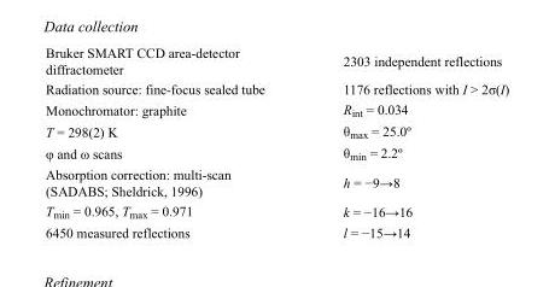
<table><tbody><tr><td>Bruker SMART CCD area-detector diffractometer</td><td>2303 independent reflections</td></tr><tr><td>Radiation source: fine-focus sealed tube</td><td>1176 reflections with I &gt; 2σ(I)</td></tr><tr><td>Monochromator: graphite</td><td>R<sub>int</sub> = 0.034</td></tr><tr><td>T = 298(2) K</td><td>θ<sub>max</sub> = 25.0º</td></tr><tr><td>φ and ω scans</td><td>θ<sub>min</sub> = 2.2º</td></tr><tr><td>Absorption correction: multi-scan (SADABS; Sheldrick, 1996)</td><td>h = −9→8</td></tr><tr><td>T<sub>min</sub> = 0.965, T<sub>max</sub> = 0.971</td><td>k = −16→16</td></tr><tr><td>6450 measured reflections</td><td>l = −15→14</td></tr></tbody></table>